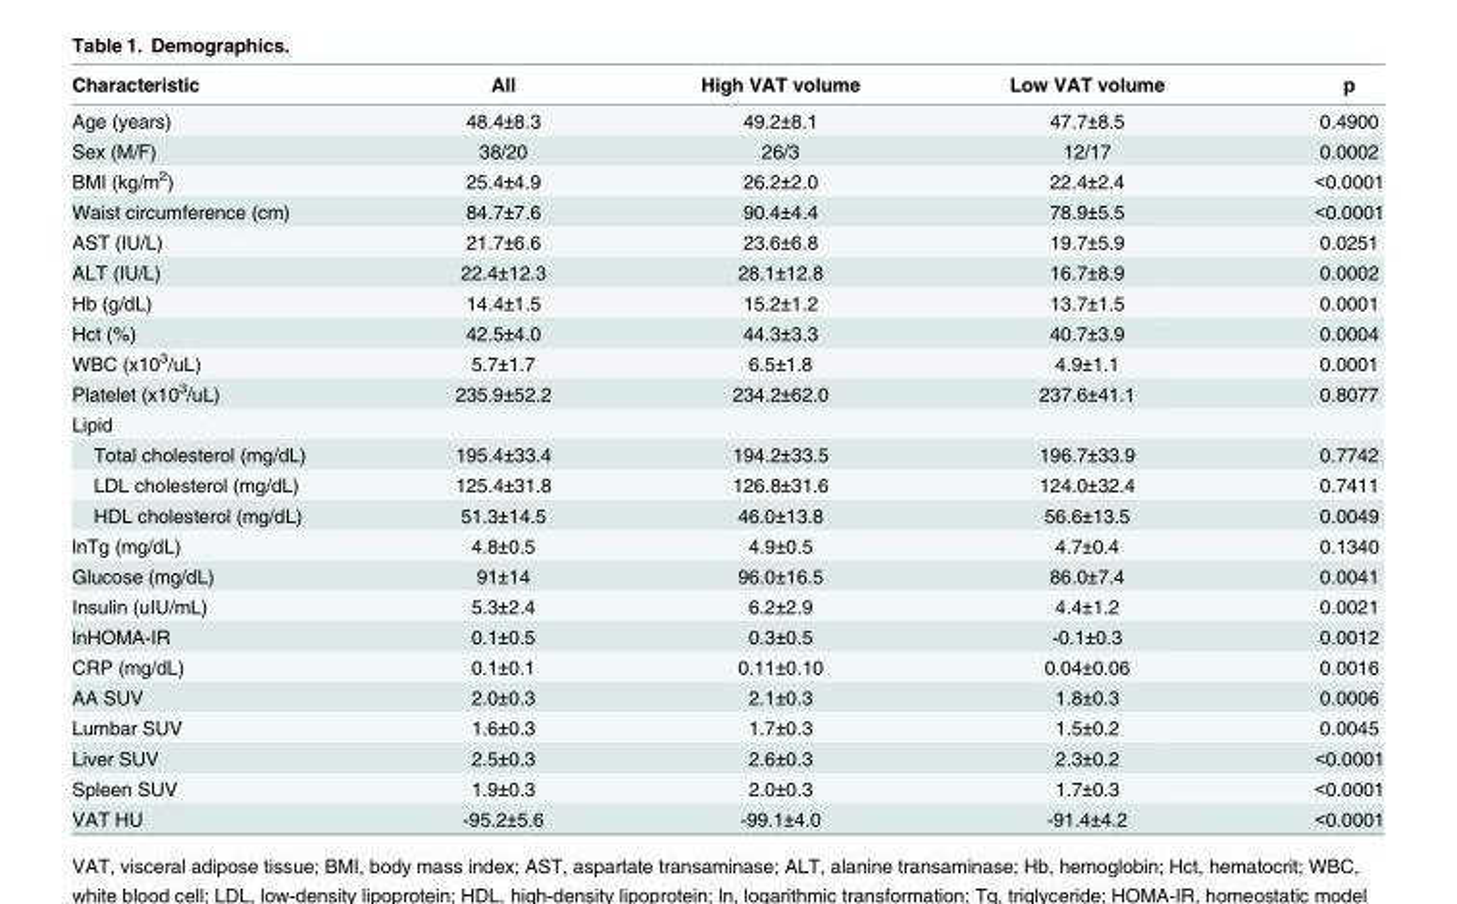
<table><thead><tr><td>Characteristic</td><td>All</td><td>High VAT volume</td><td>Low VAT volume</td><td>p</td></tr></thead><tbody><tr><td>Age (years)</td><td>48.4±8.3</td><td>49.2±8.1</td><td>47.7±8.5</td><td>0.4900</td></tr><tr><td>Sex (M/F)</td><td>38/20</td><td>26/3</td><td>12/17</td><td>0.0002</td></tr><tr><td>BMI (kg/m<sup>2</sup>)</td><td>25.4±4.9</td><td>26.2±2.0</td><td>22.4±2.4</td><td>&lt;0.0001</td></tr><tr><td>Waist circumference (cm)</td><td>84.7±7.6</td><td>90.4±4.4</td><td>78.9±5.5</td><td>&lt;0.0001</td></tr><tr><td>AST (IU/L)</td><td>21.7±6.6</td><td>23.6±6.8</td><td>19.7±5.9</td><td>0.0251</td></tr><tr><td>ALT (IU/L)</td><td>22.4±12.3</td><td>28.1±12.8</td><td>16.7±8.9</td><td>0.0002</td></tr><tr><td>Hb (g/dL)</td><td>14.4±1.5</td><td>15.2±1.2</td><td>13.7±1.5</td><td>0.0001</td></tr><tr><td>Hct (%)</td><td>42.5±4.0</td><td>44.3±3.3</td><td>40.7±3.9</td><td>0.0004</td></tr><tr><td>WBC (x10<sup>3</sup>/uL)</td><td>5.7±1.7</td><td>6.5±1.8</td><td>4.9±1.1</td><td>0.0001</td></tr><tr><td>Platelet (x10<sup>3</sup>/uL)</td><td>235.9±52.2</td><td>234.2±62.0</td><td>237.6±41.1</td><td>0.8077</td></tr><tr><td colspan="5">Lipid</td></tr><tr><td>Total cholesterol (mg/dL)</td><td>195.4±33.4</td><td>194.2±33.5</td><td>196.7±33.9</td><td>0.7742</td></tr><tr><td>LDL cholesterol (mg/dL)</td><td>125.4±31.8</td><td>126.8±31.6</td><td>124.0±32.4</td><td>0.7411</td></tr><tr><td>HDL cholesterol (mg/dL)</td><td>51.3±14.5</td><td>46.0±13.8</td><td>56.6±13.5</td><td>0.0049</td></tr><tr><td>lnTg (mg/dL)</td><td>4.8±0.5</td><td>4.9±0.5</td><td>4.7±0.4</td><td>0.1340</td></tr><tr><td>Glucose (mg/dL)</td><td>91±14</td><td>96.0±16.5</td><td>86.0±7.4</td><td>0.0041</td></tr><tr><td>Insulin (uIU/mL)</td><td>5.3±2.4</td><td>6.2±2.9</td><td>4.4±1.2</td><td>0.0021</td></tr><tr><td>lnHOMA-IR</td><td>0.1±0.5</td><td>0.3±0.5</td><td>-0.1±0.3</td><td>0.0012</td></tr><tr><td>CRP (mg/dL)</td><td>0.1±0.1</td><td>0.11±0.10</td><td>0.04±0.06</td><td>0.0016</td></tr><tr><td>AA SUV</td><td>2.0±0.3</td><td>2.1±0.3</td><td>1.8±0.3</td><td>0.0006</td></tr><tr><td>Lumbar SUV</td><td>1.6±0.3</td><td>1.7±0.3</td><td>1.5±0.2</td><td>0.0045</td></tr><tr><td>Liver SUV</td><td>2.5±0.3</td><td>2.6±0.3</td><td>2.3±0.2</td><td>&lt;0.0001</td></tr><tr><td>Spleen SUV</td><td>1.9±0.3</td><td>2.0±0.3</td><td>1.7±0.3</td><td>&lt;0.0001</td></tr><tr><td>VAT HU</td><td>-95.2±5.6</td><td>-99.1±4.0</td><td>-91.4±4.2</td><td>&lt;0.0001</td></tr></tbody></table>